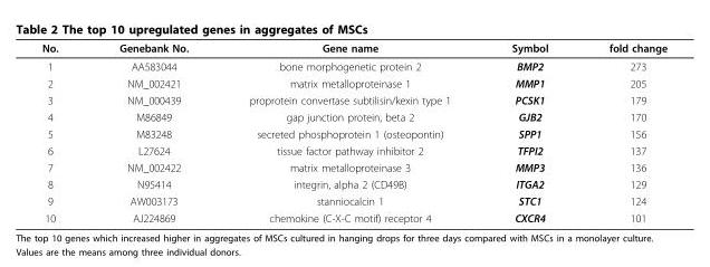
<table><thead><tr><td>No.</td><td>Genebank No.</td><td>Gene name</td><td>Symbol</td><td>fold change</td></tr></thead><tbody><tr><td>1</td><td>AA583044</td><td>bone morphogenetic protein 2</td><td>BMP2</td><td>273</td></tr><tr><td>2</td><td>NM_002421</td><td>matrix metalloproteinase 1</td><td>MMP1</td><td>205</td></tr><tr><td>3</td><td>NM_000439</td><td>proprotein convertase subtilisin/kexin type 1</td><td>PCSK1</td><td>179</td></tr><tr><td>4</td><td>M86849</td><td>gap junction protein, beta 2</td><td>GJB2</td><td>170</td></tr><tr><td>5</td><td>M83248</td><td>secreted phosphoprotein 1 (osteopontin)</td><td>SPP1</td><td>156</td></tr><tr><td>6</td><td>L27624</td><td>tissue factor pathway inhibitor 2</td><td>TFPI2</td><td>137</td></tr><tr><td>7</td><td>NM_002422</td><td>matrix metalloproteinase 3</td><td>MMP3</td><td>136</td></tr><tr><td>8</td><td>N95414</td><td>integrin, alpha 2 (CD49B)</td><td>ITGA2</td><td>129</td></tr><tr><td>9</td><td>AW003173</td><td>stanniocalcin 1</td><td>STC1</td><td>124</td></tr><tr><td>10</td><td>AJ224869</td><td>chemokine (C-X-C motif) receptor 4</td><td>CXCR4</td><td>101</td></tr></tbody></table>